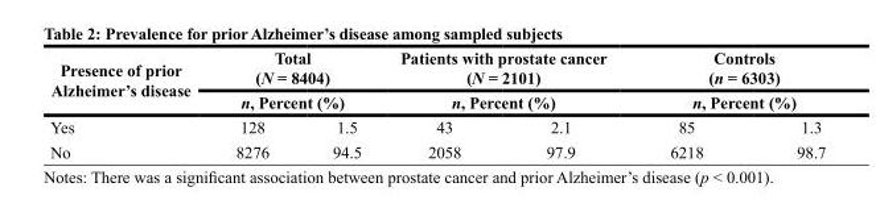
<table><thead><tr><td rowspan="3">Presence of prior Alzheimer’s disease Yes</td><td rowspan="2" colspan="2">Total (N = 8404) n, Percent (%)</td><td rowspan="2" colspan="2">Patients with prostate cancer (N = 2101) n, Percent (%)</td><td rowspan="2" colspan="2">Controls (n = 6303) n, Percent (%)</td></tr><tr></tr><tr><td>128</td><td>1.5</td><td>43</td><td>2.1</td><td>85</td><td>1.3</td></tr></thead><tbody><tr><td>No</td><td>8276</td><td>94.5</td><td>2058</td><td>97.9</td><td>6218</td><td>98.7</td></tr></tbody></table>